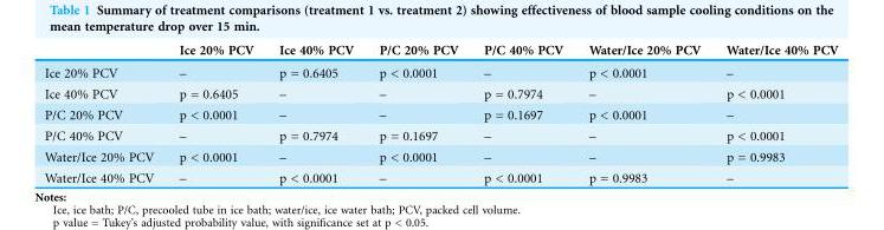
<table><thead><tr><td></td><td>Ice 20% PCV</td><td>Ice 40% PCV</td><td>P/C 20% PCV</td><td>P/C 40% PCV</td><td>Water/Ice 20% PCV</td><td>Water/Ice 40% PCV</td></tr></thead><tbody><tr><td>Ice 20% PCV</td><td>–</td><td>p = 0.6405</td><td>p &lt; 0.0001</td><td>–</td><td>p &lt; 0.0001</td><td>–</td></tr><tr><td>Ice 40% PCV</td><td>p = 0.6405</td><td>–</td><td>–</td><td>p = 0.7974</td><td>–</td><td>p &lt; 0.0001</td></tr><tr><td>P/C 20% PCV</td><td>p &lt; 0.0001</td><td>–</td><td>–</td><td>p = 0.1697</td><td>p &lt; 0.0001</td><td>–</td></tr><tr><td>P/C 40% PCV</td><td>–</td><td>p = 0.7974</td><td>p = 0.1697</td><td>–</td><td>–</td><td>p &lt; 0.0001</td></tr><tr><td>Water/Ice 20% PCV</td><td>p &lt; 0.0001</td><td>–</td><td>p &lt; 0.0001</td><td>–</td><td>–</td><td>p = 0.9983</td></tr><tr><td>Water/Ice 40% PCV</td><td>–</td><td>p &lt; 0.0001</td><td>–</td><td>p &lt; 0.0001</td><td>p = 0.9983</td><td>–</td></tr></tbody></table>